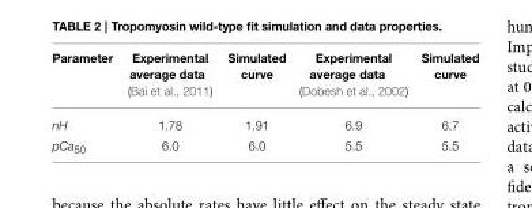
<table><thead><tr><td>Parameter</td><td>Experimental average data (Bai et al., 2011)</td><td>Simulated curve</td><td>Experimental average data (Dobesh et al., 2002)</td><td>Simulated curve</td></tr></thead><tbody><tr><td>nH</td><td>1.78</td><td>1.91</td><td>6.9</td><td>6.7</td></tr><tr><td>pCa50</td><td>6.0</td><td>6.0</td><td>5.5</td><td>5.5</td></tr></tbody></table>